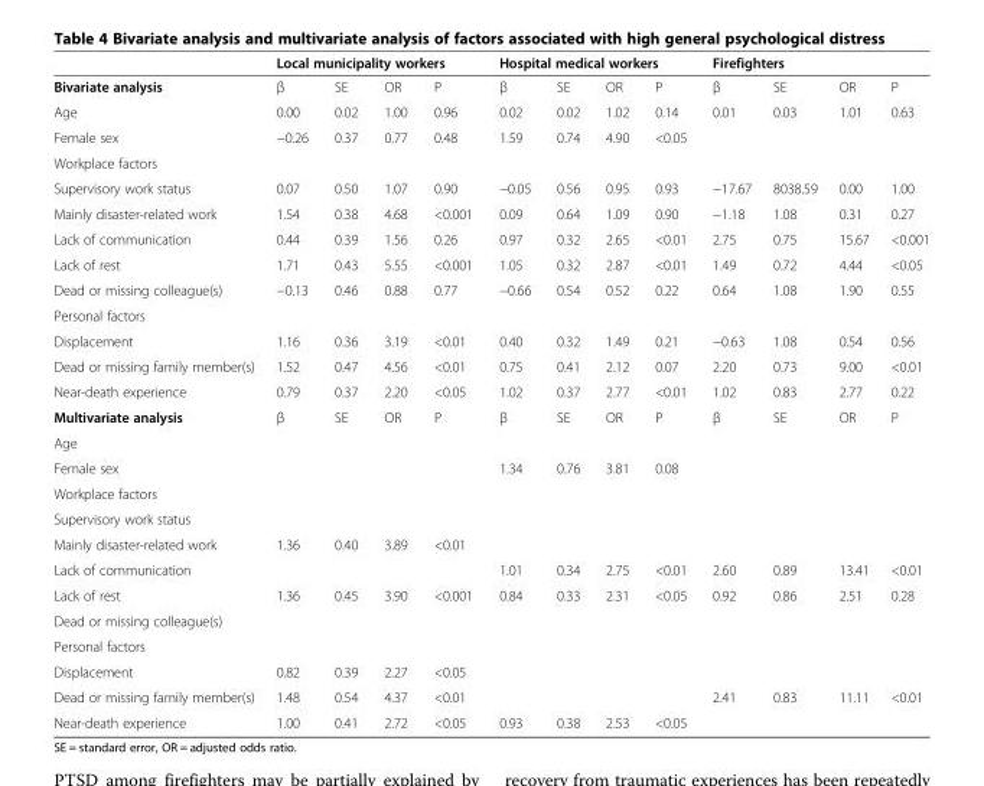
<table><thead><tr><td rowspan="2">Bivariate analysis</td><td colspan="4">Local municipality workers</td><td colspan="4">Hospital medical workers</td><td colspan="4">Firefighters</td></tr><tr><td>β</td><td>SE</td><td>OR</td><td>P</td><td>β</td><td>SE</td><td>OR</td><td>P</td><td>β</td><td>SE</td><td>OR</td><td>P</td></tr></thead><tbody><tr><td>Age</td><td>0.00</td><td>0.02</td><td>1.00</td><td>0.96</td><td>0.02</td><td>0.02</td><td>1.02</td><td>0.14</td><td>0.01</td><td>0.03</td><td>1.01</td><td>0.63</td></tr><tr><td>Female sex</td><td>−0.26</td><td>0.37</td><td>0.77</td><td>0.48</td><td>1.59</td><td>0.74</td><td>4.90</td><td>&lt;0.05</td><td></td><td></td><td></td><td></td></tr><tr><td colspan="13">Workplace factors</td></tr><tr><td>Supervisory work status</td><td>0.07</td><td>0.50</td><td>1.07</td><td>0.90</td><td>−0.05</td><td>0.56</td><td>0.95</td><td>0.93</td><td>−17.67</td><td>8038.59</td><td>0.00</td><td>1.00</td></tr><tr><td>Mainly disaster-related work</td><td>1.54</td><td>0.38</td><td>4.68</td><td>&lt;0.001</td><td>0.09</td><td>0.64</td><td>1.09</td><td>0.90</td><td>−1.18</td><td>1.08</td><td>0.31</td><td>0.27</td></tr><tr><td>Lack of communication</td><td>0.44</td><td>0.39</td><td>1.56</td><td>0.26</td><td>0.97</td><td>0.32</td><td>2.65</td><td>&lt;0.01</td><td>2.75</td><td>0.75</td><td>15.67</td><td>&lt;0.001</td></tr><tr><td>Lack of rest</td><td>1.71</td><td>0.43</td><td>5.55</td><td>&lt;0.001</td><td>1.05</td><td>0.32</td><td>2.87</td><td>&lt;0.01</td><td>1.49</td><td>0.72</td><td>4.44</td><td>&lt;0.05</td></tr><tr><td>Dead or missing colleague(s)</td><td>−0.13</td><td>0.46</td><td>0.88</td><td>0.77</td><td>−0.66</td><td>0.54</td><td>0.52</td><td>0.22</td><td>0.64</td><td>1.08</td><td>1.90</td><td>0.55</td></tr><tr><td colspan="13">Personal factors</td></tr><tr><td>Displacement</td><td>1.16</td><td>0.36</td><td>3.19</td><td>&lt;0.01</td><td>0.40</td><td>0.32</td><td>1.49</td><td>0.21</td><td>−0.63</td><td>1.08</td><td>0.54</td><td>0.56</td></tr><tr><td>Dead or missing family member(s)</td><td>1.52</td><td>0.47</td><td>4.56</td><td>&lt;0.01</td><td>0.75</td><td>0.41</td><td>2.12</td><td>0.07</td><td>2.20</td><td>0.73</td><td>9.00</td><td>&lt;0.01</td></tr><tr><td>Near-death experience</td><td>0.79</td><td>0.37</td><td>2.20</td><td>&lt;0.05</td><td>1.02</td><td>0.37</td><td>2.77</td><td>&lt;0.01</td><td>1.02</td><td>0.83</td><td>2.77</td><td>0.22</td></tr><tr><td>Multivariate analysis</td><td>β</td><td>SE</td><td>OR</td><td>P</td><td>β</td><td>SE</td><td>OR</td><td>P</td><td>β</td><td>SE</td><td>OR</td><td>P</td></tr><tr><td colspan="13">Age</td></tr><tr><td>Female sex</td><td></td><td></td><td></td><td></td><td>1.34</td><td>0.76</td><td>3.81</td><td>0.08</td><td></td><td></td><td></td><td></td></tr><tr><td colspan="13">Workplace factors</td></tr><tr><td colspan="13">Supervisory work status</td></tr><tr><td>Mainly disaster-related work</td><td>1.36</td><td>0.40</td><td>3.89</td><td>&lt;0.01</td><td></td><td></td><td></td><td></td><td></td><td></td><td></td><td></td></tr><tr><td>Lack of communication</td><td></td><td></td><td></td><td></td><td>1.01</td><td>0.34</td><td>2.75</td><td>&lt;0.01</td><td>2.60</td><td>0.89</td><td>13.41</td><td>&lt;0.01</td></tr><tr><td>Lack of rest</td><td>1.36</td><td>0.45</td><td>3.90</td><td>&lt;0.001</td><td>0.84</td><td>0.33</td><td>2.31</td><td>&lt;0.05</td><td>0.92</td><td>0.86</td><td>2.51</td><td>0.28</td></tr><tr><td colspan="13">Dead or missing colleague(s)</td></tr><tr><td colspan="13">Personal factors</td></tr><tr><td>Displacement</td><td>0.82</td><td>0.39</td><td>2.27</td><td>&lt;0.05</td><td></td><td></td><td></td><td></td><td></td><td></td><td></td><td></td></tr><tr><td>Dead or missing family member(s)</td><td>1.48</td><td>0.54</td><td>4.37</td><td>&lt;0.01</td><td></td><td></td><td></td><td></td><td>2.41</td><td>0.83</td><td>11.11</td><td>&lt;0.01</td></tr><tr><td>Near-death experience</td><td>1.00</td><td>0.41</td><td>2.72</td><td>&lt;0.05</td><td>0.93</td><td>0.38</td><td>2.53</td><td>&lt;0.05</td><td></td><td></td><td></td><td></td></tr></tbody></table>